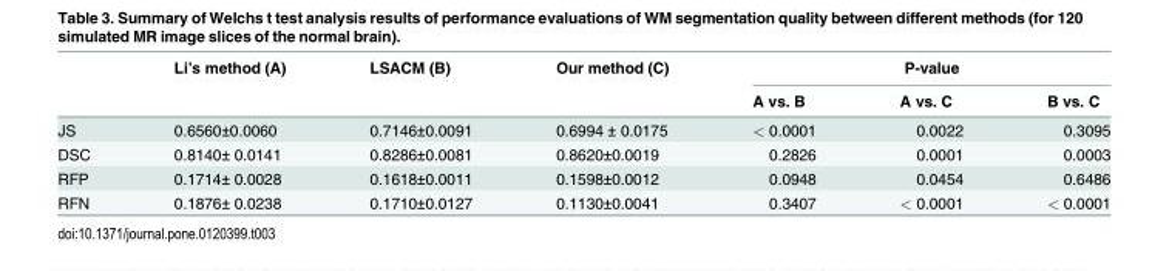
<table><thead><tr><td rowspan="2"></td><td rowspan="2">Li’s method (A)</td><td rowspan="2">LSACM (B)</td><td rowspan="2">Our method (C)</td><td colspan="3">P-value</td></tr><tr><td>A vs. B</td><td>A vs. C</td><td>B vs. C</td></tr></thead><tbody><tr><td>JS</td><td>0.6560±0.0060</td><td>0.7146±0.0091</td><td>0.6994 ± 0.0175</td><td>&lt; 0.0001</td><td>0.0022</td><td>0.3095</td></tr><tr><td>DSC</td><td>0.8140± 0.0141</td><td>0.8286±0.0081</td><td>0.8620±0.0019</td><td>0.2826</td><td>0.0001</td><td>0.0003</td></tr><tr><td>RFP</td><td>0.1714± 0.0028</td><td>0.1618±0.0011</td><td>0.1598±0.0012</td><td>0.0948</td><td>0.0454</td><td>0.6486</td></tr><tr><td>RFN</td><td>0.1876± 0.0238</td><td>0.1710±0.0127</td><td>0.1130±0.0041</td><td>0.3407</td><td>&lt; 0.0001</td><td>&lt; 0.0001</td></tr></tbody></table>